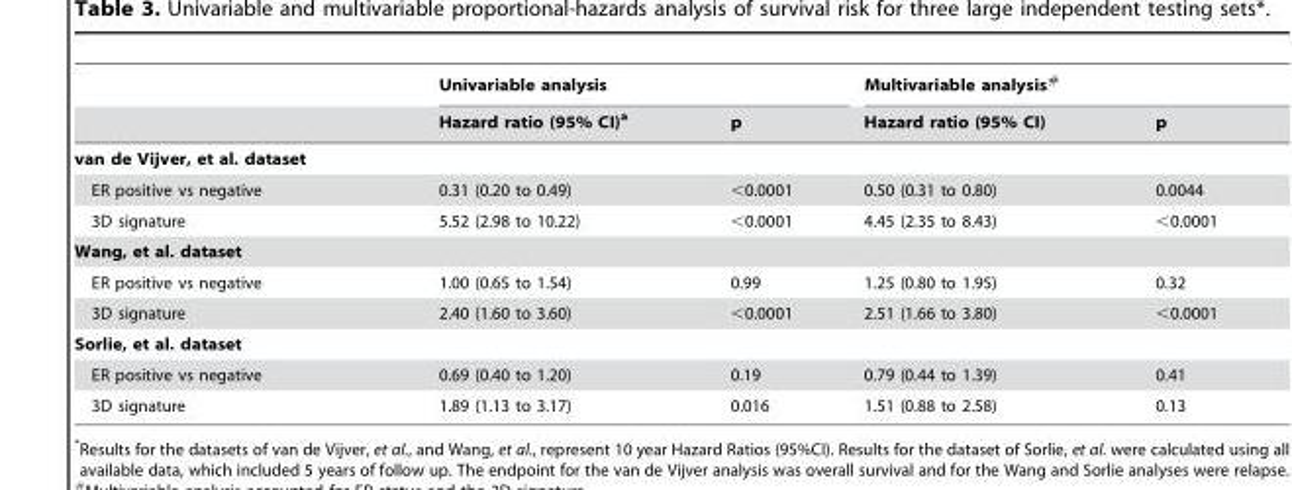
<table><thead><tr><td rowspan="2"></td><td colspan="2">Univariable analysis</td><td colspan="2">Multivariable analysis#</td></tr><tr><td>Hazard ratio (95% CI)<sup>a</sup></td><td>p</td><td>Hazard ratio (95% CI)</td><td>p</td></tr></thead><tbody><tr><td colspan="5">van de Vijver, et al. dataset</td></tr><tr><td>ER positive vs negative</td><td>0.31 (0.20 to 0.49)</td><td>&lt;0.0001</td><td>0.50 (0.31 to 0.80)</td><td>0.0044</td></tr><tr><td>3D signature</td><td>5.52 (2.98 to 10.22)</td><td>&lt;0.0001</td><td>4.45 (2.35 to 8.43)</td><td>&lt;0.0001</td></tr><tr><td colspan="5">Wang, et al. dataset</td></tr><tr><td>ER positive vs negative</td><td>1.00 (0.65 to 1.54)</td><td>0.99</td><td>1.25 (0.80 to 1.95)</td><td>0.32</td></tr><tr><td>3D signature</td><td>2.40 (1.60 to 3.60)</td><td>&lt;0.0001</td><td>2.51 (1.66 to 3.80)</td><td>&lt;0.0001</td></tr><tr><td colspan="5">Sorlie, et al. dataset</td></tr><tr><td>ER positive vs negative</td><td>0.69 (0.40 to 1.20)</td><td>0.19</td><td>0.79 (0.44 to 1.39)</td><td>0.41</td></tr><tr><td>3D signature</td><td>1.89 (1.13 to 3.17)</td><td>0.016</td><td>1.51 (0.88 to 2.58)</td><td>0.13</td></tr></tbody></table>